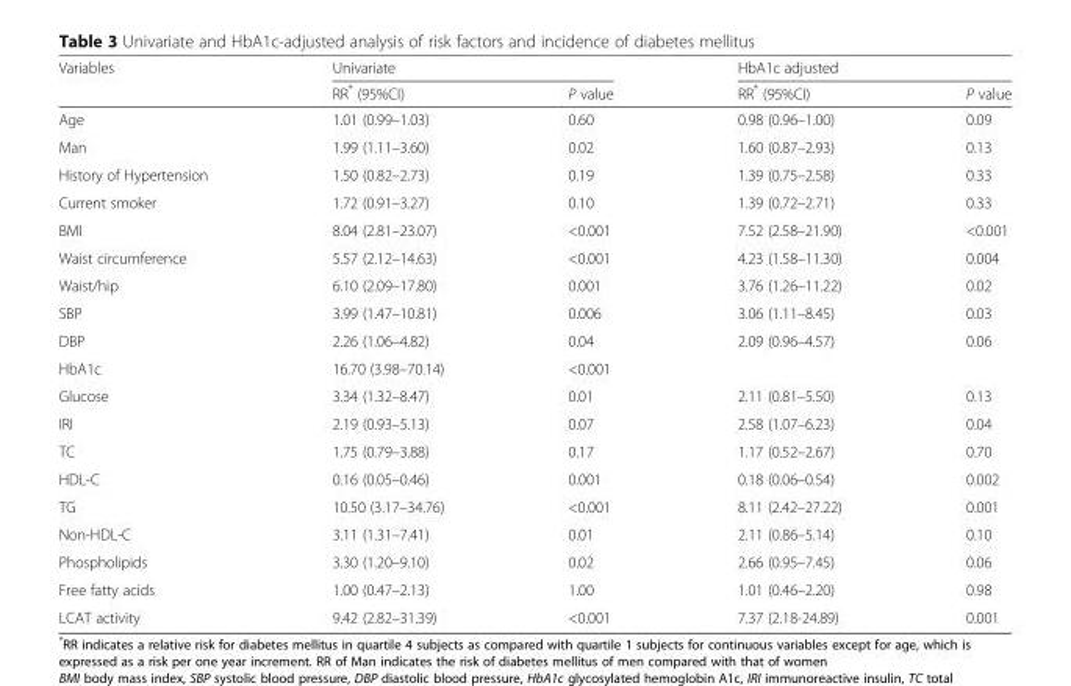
<table><thead><tr><td rowspan="2">Variables</td><td colspan="2">Univariate</td><td colspan="2">HbA1c adjusted</td></tr><tr><td>RR* (95%CI)</td><td>P value</td><td>RR* (95%CI)</td><td>P value</td></tr></thead><tbody><tr><td>Age</td><td>1.01 (0.99–1.03)</td><td>0.60</td><td>0.98 (0.96–1.00)</td><td>0.09</td></tr><tr><td>Man</td><td>1.99 (1.11–3.60)</td><td>0.02</td><td>1.60 (0.87–2.93)</td><td>0.13</td></tr><tr><td>History of Hypertension</td><td>1.50 (0.82–2.73)</td><td>0.19</td><td>1.39 (0.75–2.58)</td><td>0.33</td></tr><tr><td>Current smoker</td><td>1.72 (0.91–3.27)</td><td>0.10</td><td>1.39 (0.72–2.71)</td><td>0.33</td></tr><tr><td>BMI</td><td>8.04 (2.81–23.07)</td><td>&lt;0.001</td><td>7.52 (2.58–21.90)</td><td>&lt;0.001</td></tr><tr><td>Waist circumference</td><td>5.57 (2.12–14.63)</td><td>&lt;0.001</td><td>4.23 (1.58–11.30)</td><td>0.004</td></tr><tr><td>Waist/hip</td><td>6.10 (2.09–17.80)</td><td>0.001</td><td>3.76 (1.26–11.22)</td><td>0.02</td></tr><tr><td>SBP</td><td>3.99 (1.47–10.81)</td><td>0.006</td><td>3.06 (1.11–8.45)</td><td>0.03</td></tr><tr><td>DBP</td><td>2.26 (1.06–4.82)</td><td>0.04</td><td>2.09 (0.96–4.57)</td><td>0.06</td></tr><tr><td>HbA1c</td><td>16.70 (3.98–70.14)</td><td>&lt;0.001</td><td></td><td></td></tr><tr><td>Glucose</td><td>3.34 (1.32–8.47)</td><td>0.01</td><td>2.11 (0.81–5.50)</td><td>0.13</td></tr><tr><td>IRI</td><td>2.19 (0.93–5.13)</td><td>0.07</td><td>2.58 (1.07–6.23)</td><td>0.04</td></tr><tr><td>TC</td><td>1.75 (0.79–3.88)</td><td>0.17</td><td>1.17 (0.52–2.67)</td><td>0.70</td></tr><tr><td>HDL-C</td><td>0.16 (0.05–0.46)</td><td>0.001</td><td>0.18 (0.06–0.54)</td><td>0.002</td></tr><tr><td>TG</td><td>10.50 (3.17–34.76)</td><td>&lt;0.001</td><td>8.11 (2.42–27.22)</td><td>0.001</td></tr><tr><td>Non-HDL-C</td><td>3.11 (1.31–7.41)</td><td>0.01</td><td>2.11 (0.86–5.14)</td><td>0.10</td></tr><tr><td>Phospholipids</td><td>3.30 (1.20–9.10)</td><td>0.02</td><td>2.66 (0.95–7.45)</td><td>0.06</td></tr><tr><td>Free fatty acids</td><td>1.00 (0.47–2.13)</td><td>1.00</td><td>1.01 (0.46–2.20)</td><td>0.98</td></tr><tr><td>LCAT activity</td><td>9.42 (2.82–31.39)</td><td>&lt;0.001</td><td>7.37 (2.18-24.89)</td><td>0.001</td></tr></tbody></table>